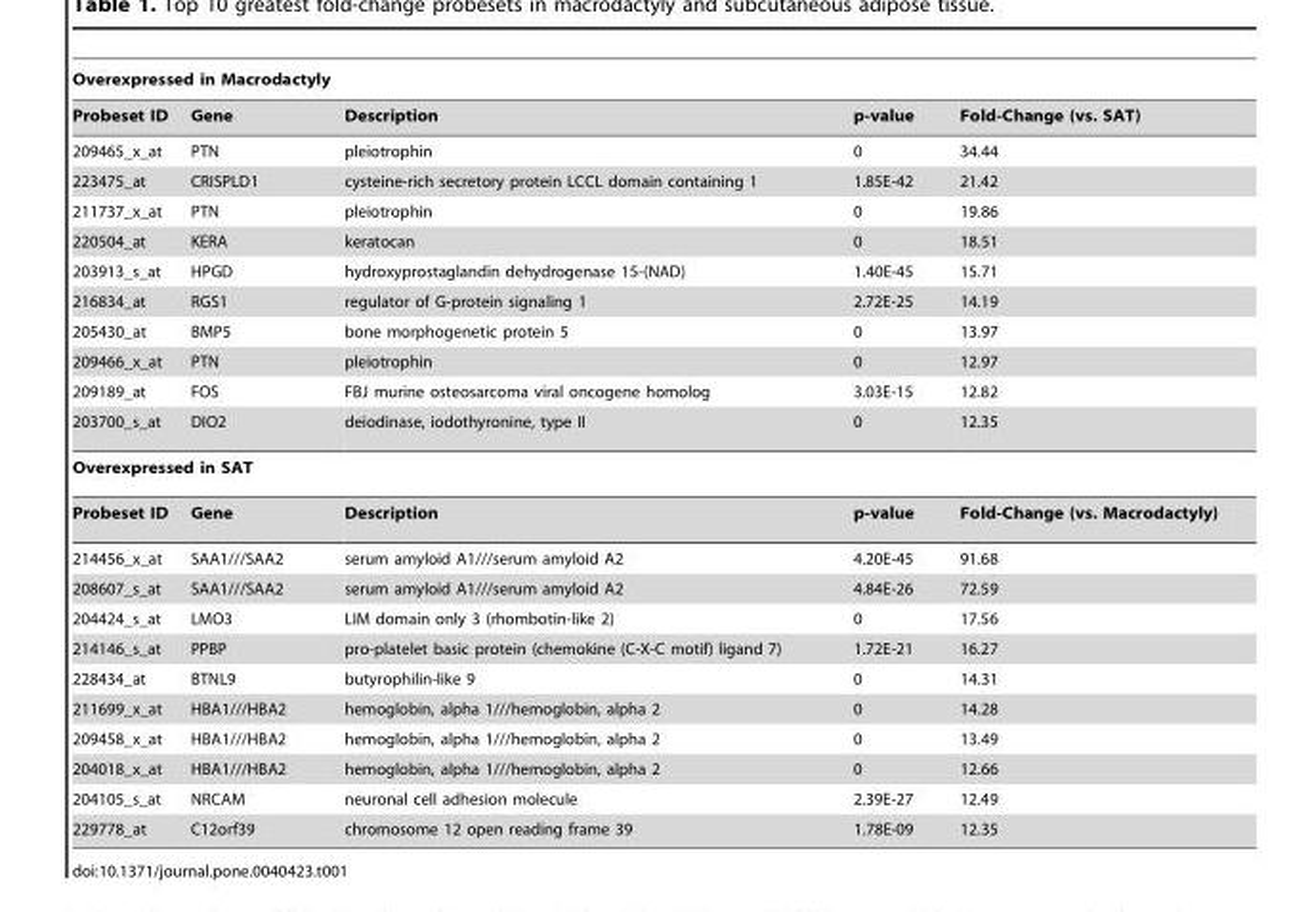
<table><thead><tr><td colspan="5">Overexpressed in Macrodactyly</td></tr><tr><td>Probeset ID</td><td>Gene</td><td>Description</td><td>p-value</td><td>Fold-Change (vs. SAT)</td></tr></thead><tbody><tr><td>209465_x_at</td><td>PTN</td><td>pleiotrophin</td><td>0</td><td>34.44</td></tr><tr><td>223475_at</td><td>CRISPLD1</td><td>cysteine-rich secretory protein LCCL domain containing 1</td><td>1.85E-42</td><td>21.42</td></tr><tr><td>211737_x_at</td><td>PTN</td><td>pleiotrophin</td><td>0</td><td>19.86</td></tr><tr><td>220504_at</td><td>KERA</td><td>keratocan</td><td>0</td><td>18.51</td></tr><tr><td>203913_s_at</td><td>HPGD</td><td>hydroxyprostaglandin dehydrogenase 15-(NAD)</td><td>1.40E-45</td><td>15.71</td></tr><tr><td>216834_at</td><td>RGS1</td><td>regulator of G-protein signaling 1</td><td>2.72E-25</td><td>14.19</td></tr><tr><td>205430_at</td><td>BMP5</td><td>bone morphogenetic protein 5</td><td>0</td><td>13.97</td></tr><tr><td>209466_x_at</td><td>PTN</td><td>pleiotrophin</td><td>0</td><td>12.97</td></tr><tr><td>209189_at</td><td>FOS</td><td>FBJ murine osteosarcoma viral oncogene homolog</td><td>3.03E-15</td><td>12.82</td></tr><tr><td>203700_s_at</td><td>DIO2</td><td>deiodinase, iodothyronine, type II</td><td>0</td><td>12.35</td></tr><tr><td colspan="5">Overexpressed in SAT</td></tr><tr><td>Probeset ID</td><td>Gene</td><td>Description</td><td>p-value</td><td>Fold-Change (vs. Macrodactyly)</td></tr><tr><td>214456_x_at</td><td>SAA1///SAA2</td><td>serum amyloid A1///serum amyloid A2</td><td>4.20E-45</td><td>91.68</td></tr><tr><td>208607_s_at</td><td>SAA1///SAA2</td><td>serum amyloid A1///serum amyloid A2</td><td>4.84E-26</td><td>72.59</td></tr><tr><td>204424_s_at</td><td>LMO3</td><td>LIM domain only 3 (rhombotin-like 2)</td><td>0</td><td>17.56</td></tr><tr><td>214146_s_at</td><td>PPBP</td><td>pro-platelet basic protein (chemokine (C-X-C motif) ligand 7)</td><td>1.72E-21</td><td>16.27</td></tr><tr><td>228434_at</td><td>BTNL9</td><td>butyrophilin-like 9</td><td>0</td><td>14.31</td></tr><tr><td>211699_x_at</td><td>HBA1///HBA2</td><td>hemoglobin, alpha 1///hemoglobin, alpha 2</td><td>0</td><td>14.28</td></tr><tr><td>209458_x_at</td><td>HBA1///HBA2</td><td>hemoglobin, alpha 1///hemoglobin, alpha 2</td><td>0</td><td>13.49</td></tr><tr><td>204018_x_at</td><td>HBA1///HBA2</td><td>hemoglobin, alpha 1///hemoglobin, alpha 2</td><td>0</td><td>12.66</td></tr><tr><td>204105_s_at</td><td>NRCAM</td><td>neuronal cell adhesion molecule</td><td>2.39E-27</td><td>12.49</td></tr><tr><td>229778_at</td><td>C12orf39</td><td>chromosome 12 open reading frame 39</td><td>1.78E-09</td><td>12.35</td></tr></tbody></table>